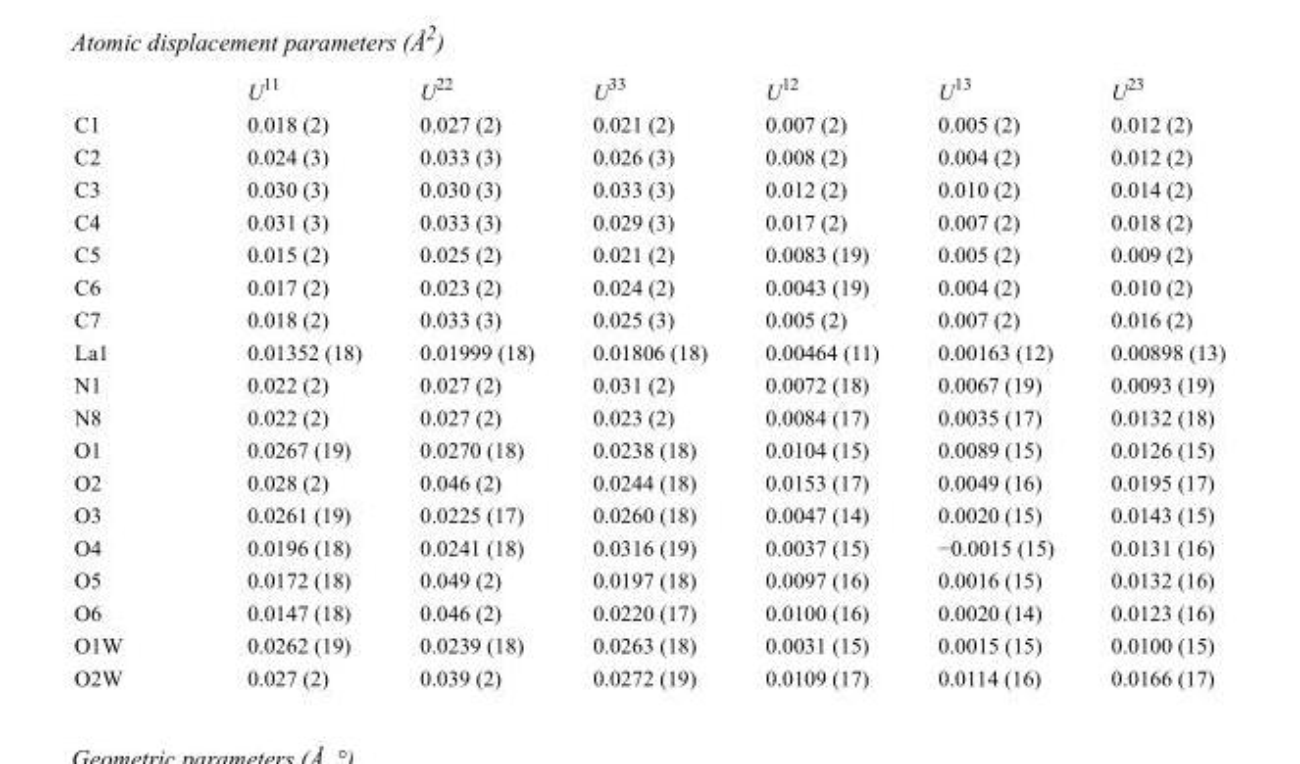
<table><thead><tr><td></td><td>U<sup>11</sup></td><td>U<sup>22</sup></td><td>U<sup>33</sup></td><td>U<sup>12</sup></td><td>U<sup>13</sup></td><td>U<sup>23</sup></td></tr></thead><tbody><tr><td>C1</td><td>0.018 (2)</td><td>0.027 (2)</td><td>0.021 (2)</td><td>0.007 (2)</td><td>0.005 (2)</td><td>0.012 (2)</td></tr><tr><td>C2</td><td>0.024 (3)</td><td>0.033 (3)</td><td>0.026 (3)</td><td>0.008 (2)</td><td>0.004 (2)</td><td>0.012 (2)</td></tr><tr><td>C3</td><td>0.030 (3)</td><td>0.030 (3)</td><td>0.033 (3)</td><td>0.012 (2)</td><td>0.010 (2)</td><td>0.014 (2)</td></tr><tr><td>C4</td><td>0.031 (3)</td><td>0.033 (3)</td><td>0.029 (3)</td><td>0.017 (2)</td><td>0.007 (2)</td><td>0.018 (2)</td></tr><tr><td>C5</td><td>0.015 (2)</td><td>0.025 (2)</td><td>0.021 (2)</td><td>0.0083 (19)</td><td>0.005 (2)</td><td>0.009 (2)</td></tr><tr><td>C6</td><td>0.017 (2)</td><td>0.023 (2)</td><td>0.024 (2)</td><td>0.0043 (19)</td><td>0.004 (2)</td><td>0.010 (2)</td></tr><tr><td>C7</td><td>0.018 (2)</td><td>0.033 (3)</td><td>0.025 (3)</td><td>0.005 (2)</td><td>0.007 (2)</td><td>0.016 (2)</td></tr><tr><td>La1</td><td>0.01352 (18)</td><td>0.01999 (18)</td><td>0.01806 (18)</td><td>0.00464 (11)</td><td>0.00163 (12)</td><td>0.00898 (13)</td></tr><tr><td>N1</td><td>0.022 (2)</td><td>0.027 (2)</td><td>0.031 (2)</td><td>0.0072 (18)</td><td>0.0067 (19)</td><td>0.0093 (19)</td></tr><tr><td>N8</td><td>0.022 (2)</td><td>0.027 (2)</td><td>0.023 (2)</td><td>0.0084 (17)</td><td>0.0035 (17)</td><td>0.0132 (18)</td></tr><tr><td>O1</td><td>0.0267 (19)</td><td>0.0270 (18)</td><td>0.0238 (18)</td><td>0.0104 (15)</td><td>0.0089 (15)</td><td>0.0126 (15)</td></tr><tr><td>O2</td><td>0.028 (2)</td><td>0.046 (2)</td><td>0.0244 (18)</td><td>0.0153 (17)</td><td>0.0049 (16)</td><td>0.0195 (17)</td></tr><tr><td>O3</td><td>0.0261 (19)</td><td>0.0225 (17)</td><td>0.0260 (18)</td><td>0.0047 (14)</td><td>0.0020 (15)</td><td>0.0143 (15)</td></tr><tr><td>O4</td><td>0.0196 (18)</td><td>0.0241 (18)</td><td>0.0316 (19)</td><td>0.0037 (15)</td><td>−0.0015 (15)</td><td>0.0131 (16)</td></tr><tr><td>O5</td><td>0.0172 (18)</td><td>0.049 (2)</td><td>0.0197 (18)</td><td>0.0097 (16)</td><td>0.0016 (15)</td><td>0.0132 (16)</td></tr><tr><td>O6</td><td>0.0147 (18)</td><td>0.046 (2)</td><td>0.0220 (17)</td><td>0.0100 (16)</td><td>0.0020 (14)</td><td>0.0123 (16)</td></tr><tr><td>O1W</td><td>0.0262 (19)</td><td>0.0239 (18)</td><td>0.0263 (18)</td><td>0.0031 (15)</td><td>0.0015 (15)</td><td>0.0100 (15)</td></tr><tr><td>O2W</td><td>0.027 (2)</td><td>0.039 (2)</td><td>0.0272 (19)</td><td>0.0109 (17)</td><td>0.0114 (16)</td><td>0.0166 (17)</td></tr></tbody></table>